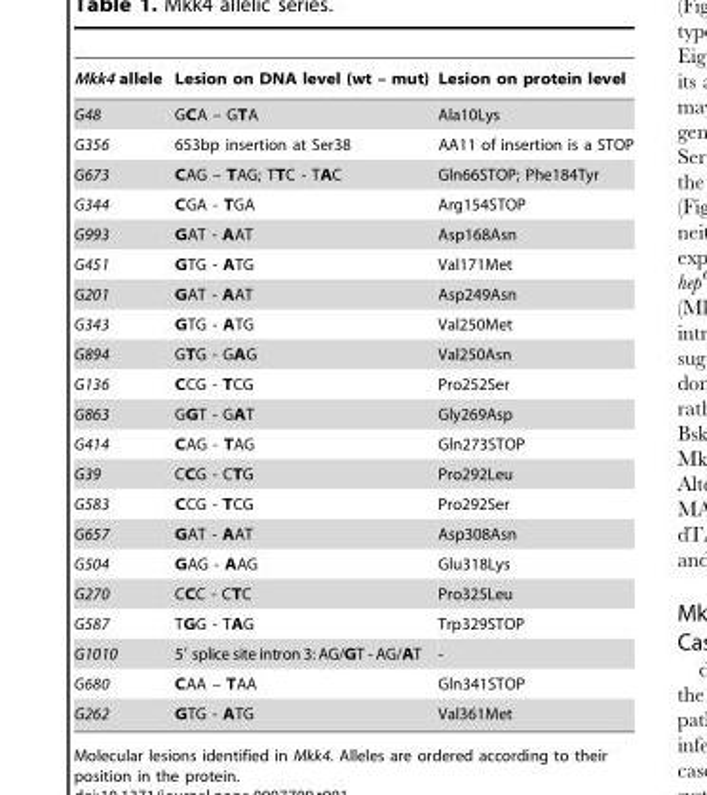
<table><thead><tr><td>Mkk4 allele</td><td>Lesion on DNA level (wt – mut)</td><td>Lesion on protein level</td></tr></thead><tbody><tr><td>G48</td><td>GCA – GTA</td><td>Ala10Lys</td></tr><tr><td>G356</td><td>653bp insertion at Ser38</td><td>AA11 of insertion is a STOP</td></tr><tr><td>G673</td><td>CAG – TAG; TTC - TAC</td><td>Gln66STOP; Phe184Tyr</td></tr><tr><td>G344</td><td>CGA - TGA</td><td>Arg154STOP</td></tr><tr><td>G993</td><td>GAT - AAT</td><td>Asp168Asn</td></tr><tr><td>G451</td><td>GTG - ATG</td><td>Val171Met</td></tr><tr><td>G201</td><td>GAT - AAT</td><td>Asp249Asn</td></tr><tr><td>G343</td><td>GTG - ATG</td><td>Val250Met</td></tr><tr><td>G894</td><td>GTG - GAG</td><td>Val250Asn</td></tr><tr><td>G136</td><td>CCG - TCG</td><td>Pro252Ser</td></tr><tr><td>G863</td><td>GGT - GAT</td><td>Gly269Asp</td></tr><tr><td>G414</td><td>CAG - TAG</td><td>Gln273STOP</td></tr><tr><td>G39</td><td>CCG - CTG</td><td>Pro292Leu</td></tr><tr><td>G583</td><td>CCG - TCG</td><td>Pro292Ser</td></tr><tr><td>G657</td><td>GAT - AAT</td><td>Asp308Asn</td></tr><tr><td>G504</td><td>GAG - AAG</td><td>Glu318Lys</td></tr><tr><td>G270</td><td>CCC - CTC</td><td>Pro325Leu</td></tr><tr><td>G587</td><td>TGG - TAG</td><td>Trp329STOP</td></tr><tr><td>G1010</td><td>5′ splice site intron 3: AG/GT - AG/AT</td><td>-</td></tr><tr><td>G680</td><td>CAA – TAA</td><td>Gln341STOP</td></tr><tr><td>G262</td><td>GTG - ATG</td><td>Val361Met</td></tr></tbody></table>